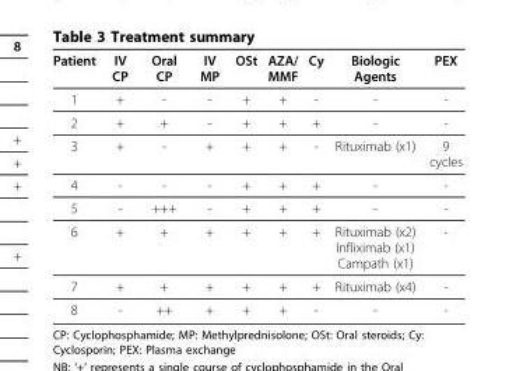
<table><thead><tr><td>Patient</td><td>IV CP</td><td>Oral CP</td><td>IV MP</td><td>OSt</td><td>AZA/ MMF</td><td>Cy</td><td>Biologic Agents</td><td>PEX</td></tr></thead><tbody><tr><td>1</td><td>+</td><td>-</td><td>-</td><td>+</td><td>+</td><td>-</td><td>-</td><td>-</td></tr><tr><td>2</td><td>+</td><td>+</td><td>-</td><td>+</td><td>+</td><td>+</td><td>-</td><td>-</td></tr><tr><td>3</td><td>+</td><td>-</td><td>+</td><td>+</td><td>+</td><td>-</td><td>Rituximab (x1)</td><td>9 cycles</td></tr><tr><td>4</td><td>-</td><td>-</td><td>-</td><td>+</td><td>+</td><td>+</td><td>-</td><td>-</td></tr><tr><td>5</td><td>-</td><td>+++</td><td>-</td><td>+</td><td>+</td><td>+</td><td>-</td><td>-</td></tr><tr><td>6</td><td>+</td><td>+</td><td>+</td><td>+</td><td>+</td><td>+</td><td>Rituximab (x2) Infliximab (x1) Campath (x1)</td><td>-</td></tr><tr><td>7</td><td>+</td><td>+</td><td>+</td><td>+</td><td>+</td><td>+</td><td>Rituximab (x4)</td><td>-</td></tr><tr><td>8</td><td>-</td><td>++</td><td>+</td><td>+</td><td>+</td><td>-</td><td>-</td><td>-</td></tr></tbody></table>